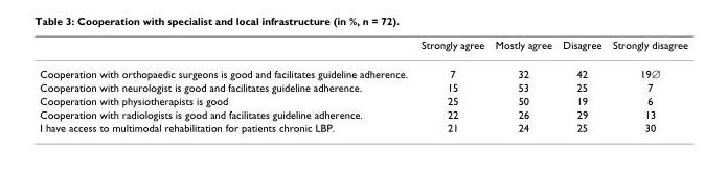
<table><thead><tr><td></td><td>Strongly agree</td><td>Mostly agree</td><td>Disagree</td><td>Strongly disagree</td></tr></thead><tbody><tr><td>Cooperation with orthopaedic surgeons is good and facilitates guideline adherence.</td><td>7</td><td>32</td><td>42</td><td>19∅</td></tr><tr><td>Cooperation with neurologist is good and facilitates guideline adherence.</td><td>15</td><td>53</td><td>25</td><td>7</td></tr><tr><td>Cooperation with physiotherapists is good</td><td>25</td><td>50</td><td>19</td><td>6</td></tr><tr><td>Cooperation with radiologists is good and facilitates guideline adherence.</td><td>22</td><td>26</td><td>29</td><td>13</td></tr><tr><td>I have access to multimodal rehabilitation for patients chronic LBP.</td><td>21</td><td>24</td><td>25</td><td>30</td></tr></tbody></table>